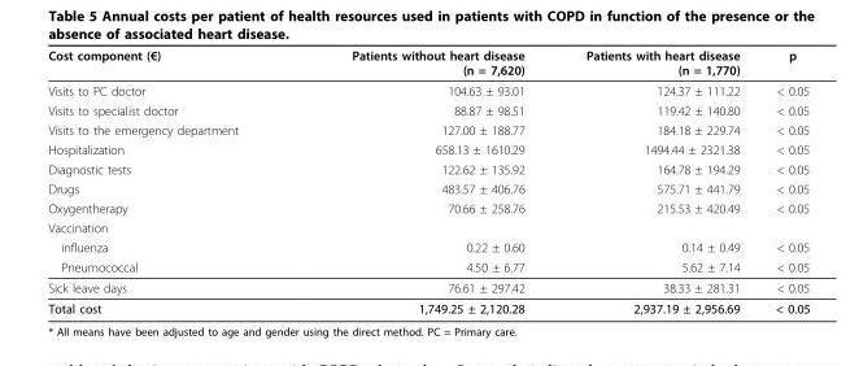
<table><thead><tr><td>Cost component (€)</td><td>Patients without heart disease (n = 7,620)</td><td>Patients with heart disease (n = 1,770)</td><td>p</td></tr></thead><tbody><tr><td>Visits to PC doctor</td><td>104.63 ± 93.01</td><td>124.37 ± 111.22</td><td>&lt; 0.05</td></tr><tr><td>Visits to specialist doctor</td><td>88.87 ± 98.51</td><td>119.42 ± 140.80</td><td>&lt; 0.05</td></tr><tr><td>Visits to the emergency department</td><td>127.00 ± 188.77</td><td>184.18 ± 229.74</td><td>&lt; 0.05</td></tr><tr><td>Hospitalization</td><td>658.13 ± 1610.29</td><td>1494.44 ± 2321.38</td><td>&lt; 0.05</td></tr><tr><td>Diagnostic tests</td><td>122.62 ± 135.92</td><td>164.78 ± 194.29</td><td>&lt; 0.05</td></tr><tr><td>Drugs</td><td>483.57 ± 406.76</td><td>575.71 ± 441.79</td><td>&lt; 0.05</td></tr><tr><td>Oxygentherapy</td><td>70.66 ± 258.76</td><td>215.53 ± 420.49</td><td>&lt; 0.05</td></tr><tr><td colspan="4">Vaccination</td></tr><tr><td>influenza</td><td>0.22 ± 0.60</td><td>0.14 ± 0.49</td><td>&lt; 0.05</td></tr><tr><td>Pneumococcal</td><td>4.50 ± 6.77</td><td>5.62 ± 7.14</td><td>&lt; 0.05</td></tr><tr><td>Sick leave days</td><td>76.61 ± 297.42</td><td>38.33 ± 281.31</td><td>&lt; 0.05</td></tr><tr><td>Total cost</td><td>1,749.25 ± 2,120.28</td><td>2,937.19 ± 2,956.69</td><td>&lt; 0.05</td></tr></tbody></table>